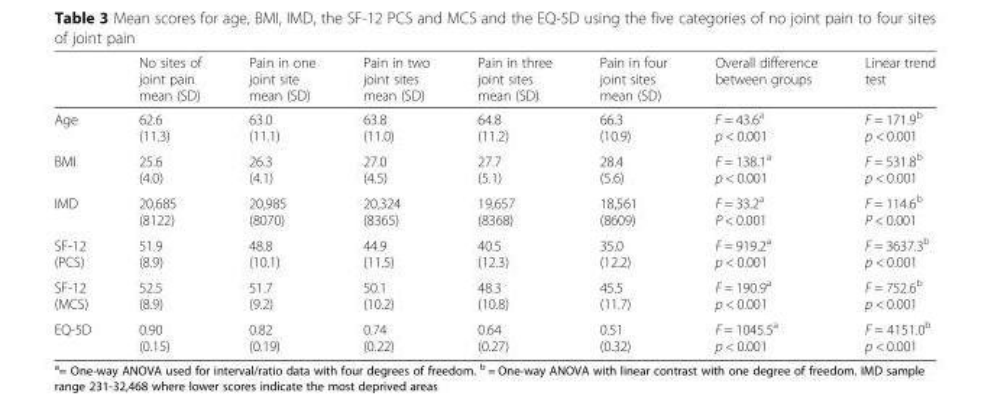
<table><thead><tr><td></td><td>No sites of joint pain mean (SD)</td><td>Pain in one joint site mean (SD)</td><td>Pain in two joint sites mean (SD)</td><td>Pain in three joint sites mean (SD)</td><td>Pain in four joint sites mean (SD)</td><td>Overall difference between groups</td><td>Linear trend test</td></tr></thead><tbody><tr><td>Age</td><td>62.6 (11.3)</td><td>63.0 (11.1)</td><td>63.8 (11.0)</td><td>64.8 (11.2)</td><td>66.3 (10.9)</td><td>F = 43.6<sup>a</sup> p &lt; 0.001</td><td>F = 171.9<sup>b</sup> p &lt; 0.001</td></tr><tr><td>BMI</td><td>25.6 (4.0)</td><td>26.3 (4.1)</td><td>27.0 (4.5)</td><td>27.7 (5.1)</td><td>28.4 (5.6)</td><td>F = 138.1<sup>a</sup> p &lt; 0.001</td><td>F = 531.8<sup>b</sup> p &lt; 0.001</td></tr><tr><td>IMD</td><td>20,685 (8122)</td><td>20,985 (8070)</td><td>20,324 (8365)</td><td>19,657 (8368)</td><td>18,561 (8609)</td><td>F = 33.2<sup>a</sup> P &lt; 0.001</td><td>F = 114.6<sup>b</sup> P &lt; 0.001</td></tr><tr><td>SF-12 (PCS)</td><td>51.9 (8.9)</td><td>48.8 (10.1)</td><td>44.9 (11.5)</td><td>40.5 (12.3)</td><td>35.0 (12.2)</td><td>F = 919.2<sup>a</sup> p &lt; 0.001</td><td>F = 3637.3<sup>b</sup> p &lt; 0.001</td></tr><tr><td>SF-12 (MCS)</td><td>52.5 (8.9)</td><td>51.7 (9.2)</td><td>50.1 (10.2)</td><td>48.3 (10.8)</td><td>45.5 (11.7)</td><td>F = 190.9<sup>a</sup> p &lt; 0.001</td><td>F = 752.6<sup>b</sup> p &lt; 0.001</td></tr><tr><td>EQ-5D</td><td>0.90 (0.15)</td><td>0.82 (0.19)</td><td>0.74 (0.22)</td><td>0.64 (0.27)</td><td>0.51 (0.32)</td><td>F = 1045.5<sup>a</sup> p &lt; 0.001</td><td>F = 4151.0<sup>b</sup> p &lt; 0.001</td></tr></tbody></table>